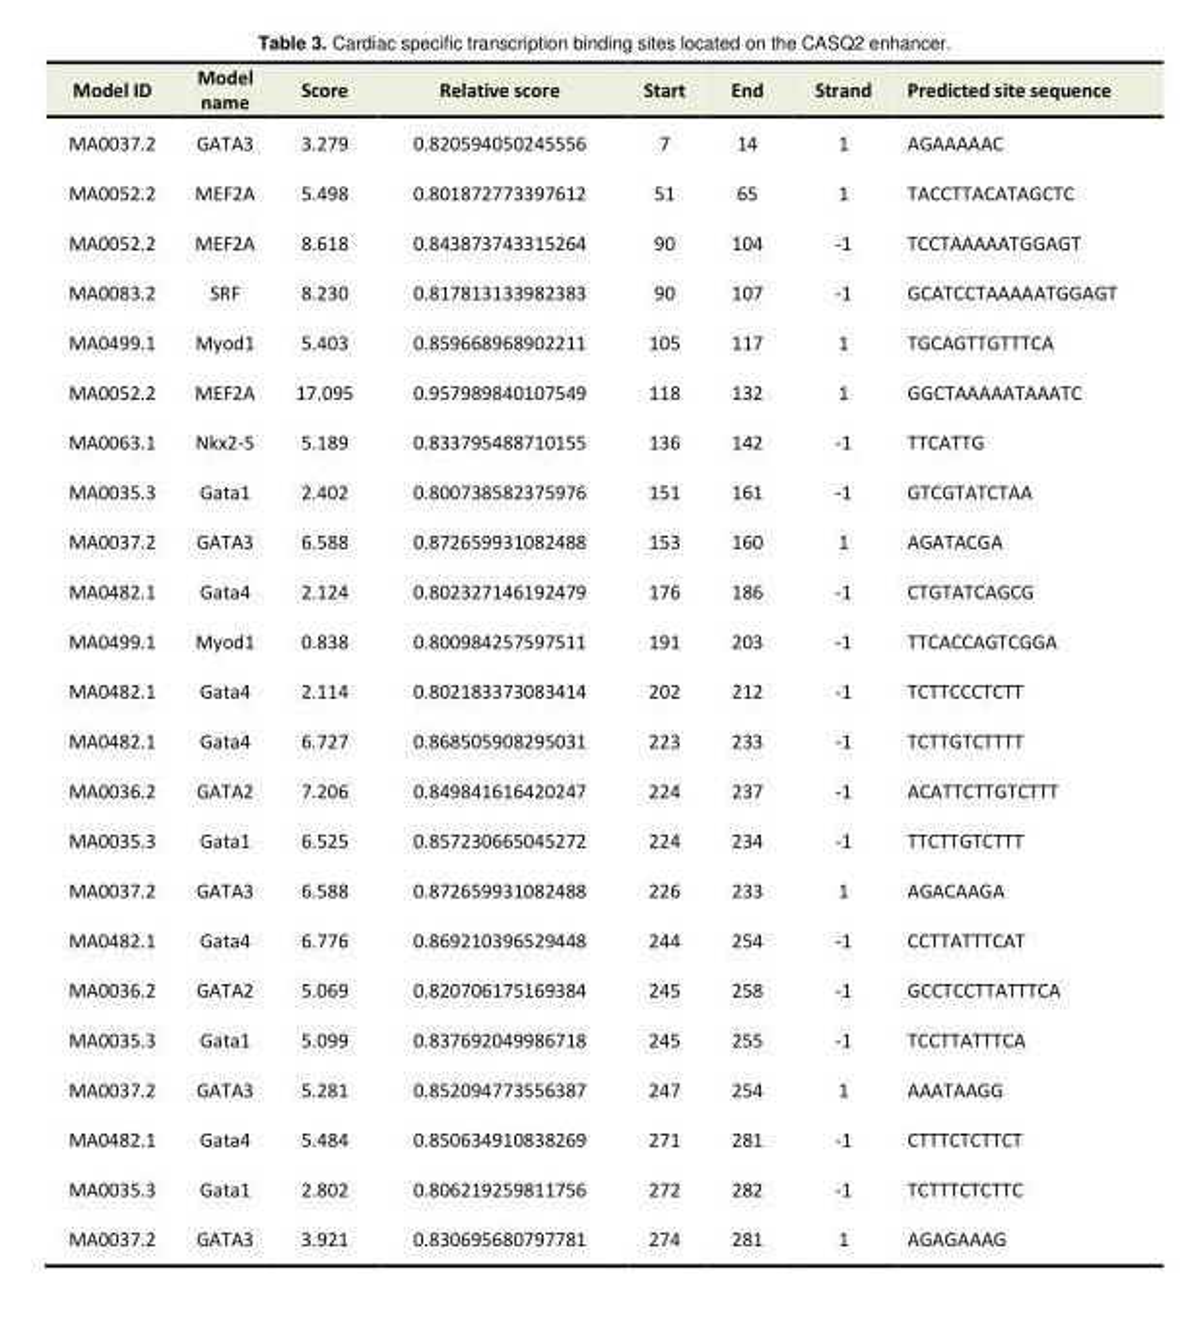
<table><tbody><tr><td>Model ID</td><td>Model name</td><td>Score</td><td>Relative score</td><td>Start</td><td>End</td><td>Strand</td><td>Predicted site sequence</td></tr><tr><td>MA0037.2</td><td>GATA3</td><td>3.279</td><td>0.820594050245556</td><td>7</td><td>14</td><td>1</td><td>AGAAAAAC</td></tr><tr><td>MA0052.2</td><td>MEF2A</td><td>5.498</td><td>0.801872773397612</td><td>51</td><td>65</td><td>1</td><td>TACCTTACATAGCTC</td></tr><tr><td>MA0052.2</td><td>MEF2A</td><td>8.618</td><td>0.843873743315264</td><td>90</td><td>104</td><td>-1</td><td>TCCTAAAAATGGAGT</td></tr><tr><td>MA0083.2</td><td>SRF</td><td>8.230</td><td>0.817813133982383</td><td>90</td><td>107</td><td>-1</td><td>GCATCCTAAAAATGGAGT</td></tr><tr><td>MA0499.1</td><td>Myod1</td><td>5.403</td><td>0.859668968902211</td><td>105</td><td>117</td><td>1</td><td>TGCAGTTGTTTCA</td></tr><tr><td>MA0052.2</td><td>MEF2A</td><td>17.095</td><td>0.957989840107549</td><td>118</td><td>132</td><td>1</td><td>GGCTAAAAATAAATC</td></tr><tr><td>MA0063.1</td><td>Nkx2-5</td><td>5.189</td><td>0.833795488710155</td><td>136</td><td>142</td><td>-1</td><td>TTCATTG</td></tr><tr><td>MA0035.3</td><td>Gata1</td><td>2.402</td><td>0.800738582375976</td><td>151</td><td>161</td><td>-1</td><td>GTCGTATCTAA</td></tr><tr><td>MA0037.2</td><td>GATA3</td><td>6.588</td><td>0.872659931082488</td><td>153</td><td>160</td><td>1</td><td>AGATACGA</td></tr><tr><td>MA0482.1</td><td>Gata4</td><td>2.124</td><td>0.802327146192479</td><td>176</td><td>186</td><td>-1</td><td>CTGTATCAGCG</td></tr><tr><td>MA0499.1</td><td>Myod1</td><td>0.838</td><td>0.800984257597511</td><td>191</td><td>203</td><td>-1</td><td>TTCACCAGTCGGA</td></tr><tr><td>MA0482.1</td><td>Gata4</td><td>2.114</td><td>0.802183373083414</td><td>202</td><td>212</td><td>-1</td><td>TCTTCCCTCTT</td></tr><tr><td>MA0482.1</td><td>Gata4</td><td>6.727</td><td>0.868505908295031</td><td>223</td><td>233</td><td>-1</td><td>TCTTGTCTTTT</td></tr><tr><td>MA0036.2</td><td>GATA2</td><td>7.206</td><td>0.849841616420247</td><td>224</td><td>237</td><td>-1</td><td>ACATTCTTGTCTTT</td></tr><tr><td>MA0035.3</td><td>Gata1</td><td>6.525</td><td>0.857230665045272</td><td>224</td><td>234</td><td>-1</td><td>TTCTTGTCTTT</td></tr><tr><td>MA0037.2</td><td>GATA3</td><td>6.588</td><td>0.872659931082488</td><td>226</td><td>233</td><td>1</td><td>AGACAAGA</td></tr><tr><td>MA0482.1</td><td>Gata4</td><td>6.776</td><td>0.869210396529448</td><td>244</td><td>254</td><td>-1</td><td>CCTTATTTCAT</td></tr><tr><td>MA0036.2</td><td>GATA2</td><td>5.069</td><td>0.820706175169384</td><td>245</td><td>258</td><td>-1</td><td>GCCTCCTTATTTCA</td></tr><tr><td>MA0035.3</td><td>Gata1</td><td>5.099</td><td>0.837692049986718</td><td>245</td><td>255</td><td>-1</td><td>TCCTTATTTCA</td></tr><tr><td>MA0037.2</td><td>GATA3</td><td>5.281</td><td>0.852094773556387</td><td>247</td><td>254</td><td>1</td><td>AAATAAGG</td></tr><tr><td>MA0482.1</td><td>Gata4</td><td>5.484</td><td>0.850634910838269</td><td>271</td><td>281</td><td>-1</td><td>CTTTCTCTTCT</td></tr><tr><td>MA0035.3</td><td>Gata1</td><td>2.802</td><td>0.806219259811756</td><td>272</td><td>282</td><td>-1</td><td>TCTTTCTCTTC</td></tr><tr><td>MA0037.2</td><td>GATA3</td><td>3.921</td><td>0.830695680797781</td><td>274</td><td>281</td><td>1</td><td>AGAGAAAG</td></tr></tbody></table>